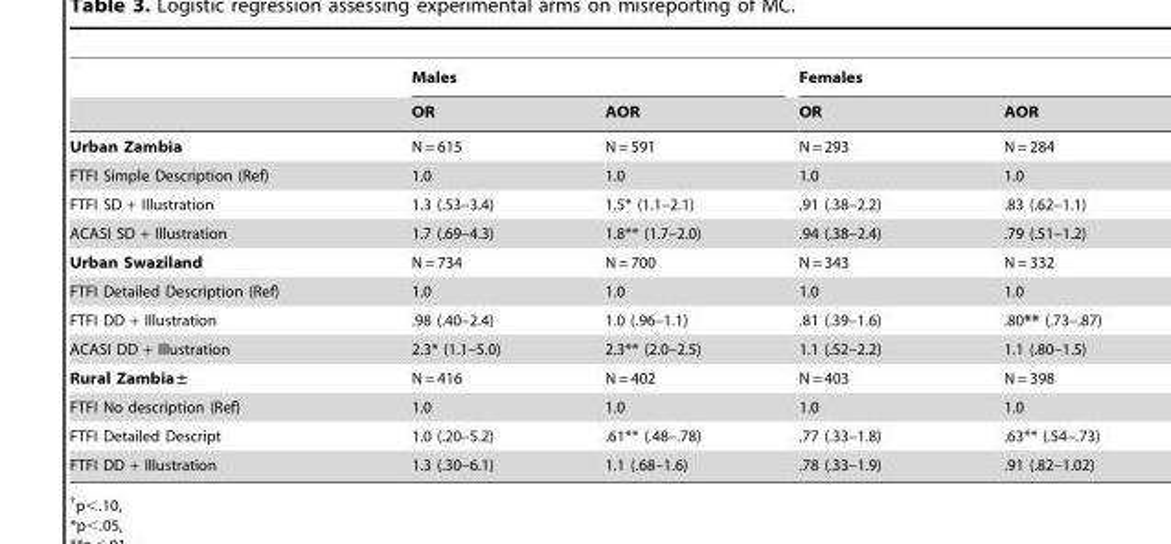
<table><thead><tr><td rowspan="2"></td><td colspan="2">Males</td><td colspan="2">Females</td></tr><tr><td>OR</td><td>AOR</td><td>OR</td><td>AOR</td></tr></thead><tbody><tr><td>Urban Zambia</td><td>N = 615</td><td>N = 591</td><td>N = 293</td><td>N = 284</td></tr><tr><td>FTFI Simple Description (Ref)</td><td>1.0</td><td>1.0</td><td>1.0</td><td>1.0</td></tr><tr><td>FTFI SD + Illustration</td><td>1.3 (.53–3.4)</td><td>1.5* (1.1–2.1)</td><td>.91 (.38–2.2)</td><td>.83 (.62–1.1)</td></tr><tr><td>ACASI SD + Illustration</td><td>1.7 (.69–4.3)</td><td>1.8** (1.7–2.0)</td><td>.94 (.38–2.4)</td><td>.79 (.51–1.2)</td></tr><tr><td>Urban Swaziland</td><td>N = 734</td><td>N = 700</td><td>N = 343</td><td>N = 332</td></tr><tr><td>FTFI Detailed Description (Ref)</td><td>1.0</td><td>1.0</td><td>1.0</td><td>1.0</td></tr><tr><td>FTFI DD + Illustration</td><td>.98 (.40–2.4)</td><td>1.0 (.96–1.1)</td><td>.81 (.39–1.6)</td><td>.80** (.73–.87)</td></tr><tr><td>ACASI DD + Illustration</td><td>2.3* (1.1–5.0)</td><td>2.3** (2.0–2.5)</td><td>1.1 (.52–2.2)</td><td>1.1 (.80–1.5)</td></tr><tr><td>Rural Zambia±</td><td>N = 416</td><td>N = 402</td><td>N = 403</td><td>N = 398</td></tr><tr><td>FTFI No description (Ref)</td><td>1.0</td><td>1.0</td><td>1.0</td><td>1.0</td></tr><tr><td>FTFI Detailed Descript</td><td>1.0 (.20–5.2)</td><td>.61** (.48–.78)</td><td>.77 (.33–1.8)</td><td>.63** (.54–.73)</td></tr><tr><td>FTFI DD + Illustration</td><td>1.3 (.30–6.1)</td><td>1.1 (.68–1.6)</td><td>.78 (.33–1.9)</td><td>.91 (.82–1.02)</td></tr></tbody></table>